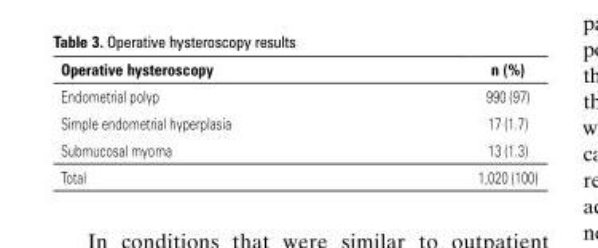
<table><thead><tr><td>Operative hysteroscopy</td><td>n (%)</td></tr></thead><tbody><tr><td>Endometrial polyp</td><td>990 (97)</td></tr><tr><td>Simple endometrial hyperplasia</td><td>17 (1.7)</td></tr><tr><td>Submucosal myoma</td><td>13 (1.3)</td></tr><tr><td>Total</td><td>1,020 (100)</td></tr></tbody></table>